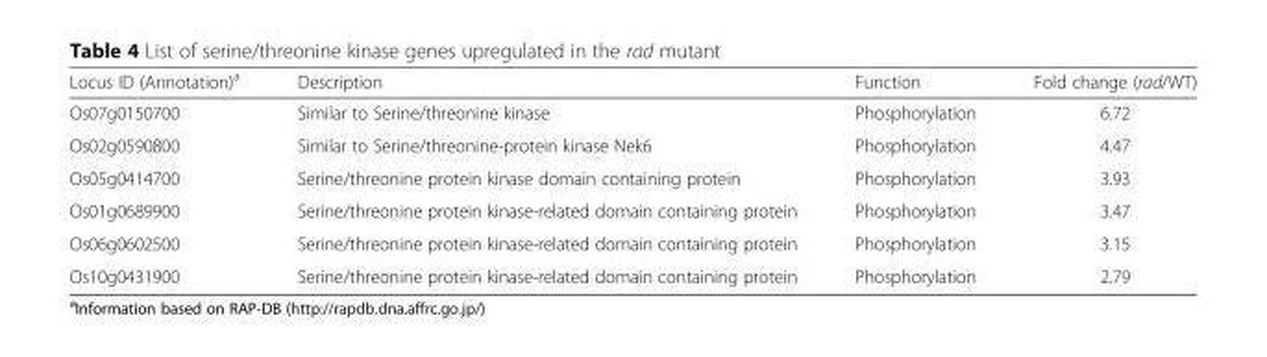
<table><thead><tr><td>Locus ID (Annotation)<sup>a</sup></td><td>Description</td><td>Function</td><td>Fold change (rad/WT)</td></tr></thead><tbody><tr><td>Os07g0150700</td><td>Similar to Serine/threonine kinase</td><td>Phosphorylation</td><td>6.72</td></tr><tr><td>Os02g0590800</td><td>Similar to Serine/threonine-protein kinase Nek6</td><td>Phosphorylation</td><td>4.47</td></tr><tr><td>Os05g0414700</td><td>Serine/threonine protein kinase domain containing protein</td><td>Phosphorylation</td><td>3.93</td></tr><tr><td>Os01g0689900</td><td>Serine/threonine protein kinase-related domain containing protein</td><td>Phosphorylation</td><td>3.47</td></tr><tr><td>Os06g0602500</td><td>Serine/threonine protein kinase-related domain containing protein</td><td>Phosphorylation</td><td>3.15</td></tr><tr><td>Os10g0431900</td><td>Serine/threonine protein kinase-related domain containing protein</td><td>Phosphorylation</td><td>2.79</td></tr></tbody></table>